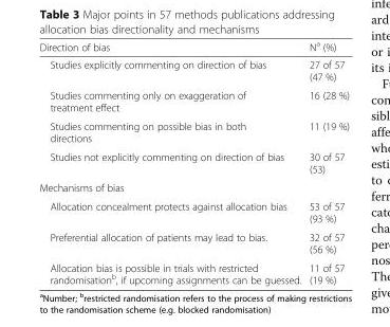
<table><thead><tr><td>Direction of bias</td><td>N<sup>a</sup> (%)</td></tr></thead><tbody><tr><td>Studies explicitly commenting on direction of bias</td><td>27 of 57 (47 %)</td></tr><tr><td>Studies commenting only on exaggeration of treatment effect</td><td>16 (28 %)</td></tr><tr><td>Studies commenting on possible bias in both directions</td><td>11 (19 %)</td></tr><tr><td>Studies not explicitly commenting on direction of bias</td><td>30 of 57 (53)</td></tr><tr><td colspan="2">Mechanisms of bias</td></tr><tr><td>Allocation concealment protects against allocation bias</td><td>53 of 57 (93 %)</td></tr><tr><td>Preferential allocation of patients may lead to bias.</td><td>32 of 57 (56 %)</td></tr><tr><td>Allocation bias is possible in trials with restricted randomisation<sup>b</sup>, if upcoming assignments can be guessed.</td><td>11 of 57 (19 %)</td></tr></tbody></table>